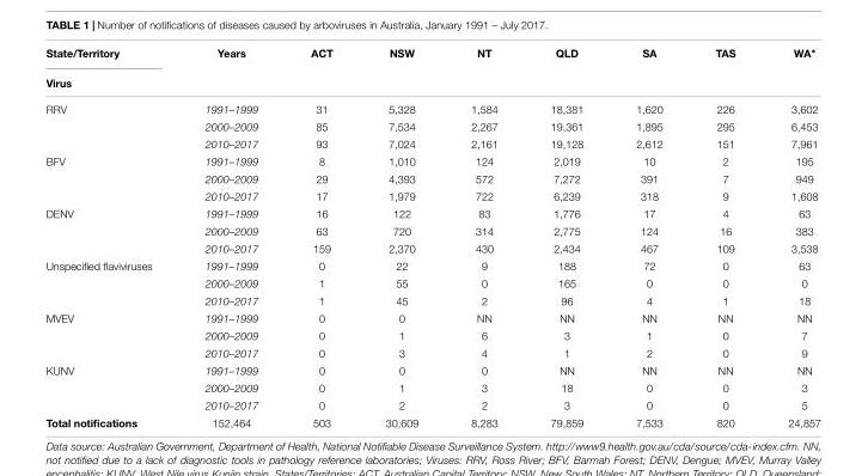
<table><thead><tr><td rowspan="2">State/Territory Virus</td><td rowspan="2">Years</td><td rowspan="2">ACT</td><td rowspan="2">NSW</td><td rowspan="2">NT</td><td rowspan="2">QLD</td><td rowspan="2">SA</td><td rowspan="2">TAS</td><td rowspan="2">WA∗</td></tr><tr></tr></thead><tbody><tr><td rowspan="3">RRV</td><td>1991–1999</td><td>31</td><td>5,328</td><td>1,584</td><td>18,381</td><td>1,620</td><td>226</td><td>3,602</td></tr><tr><td>2000–2009</td><td>85</td><td>7,534</td><td>2,267</td><td>19,361</td><td>1,895</td><td>295</td><td>6,453</td></tr><tr><td>2010–2017</td><td>93</td><td>7,024</td><td>2,161</td><td>19,128</td><td>2,612</td><td>151</td><td>7,961</td></tr><tr><td rowspan="3">BFV</td><td>1991–1999</td><td>8</td><td>1,010</td><td>124</td><td>2,019</td><td>10</td><td>2</td><td>195</td></tr><tr><td>2000–2009</td><td>29</td><td>4,393</td><td>572</td><td>7,272</td><td>391</td><td>7</td><td>949</td></tr><tr><td>2010–2017</td><td>17</td><td>1,979</td><td>722</td><td>6,239</td><td>318</td><td>9</td><td>1,608</td></tr><tr><td rowspan="3">DENV</td><td>1991–1999</td><td>16</td><td>122</td><td>83</td><td>1,776</td><td>17</td><td>4</td><td>63</td></tr><tr><td>2000–2009</td><td>63</td><td>720</td><td>314</td><td>2,775</td><td>124</td><td>16</td><td>383</td></tr><tr><td>2010–2017</td><td>159</td><td>2,370</td><td>430</td><td>2,434</td><td>467</td><td>109</td><td>3,538</td></tr><tr><td rowspan="3">Unspecified flaviviruses</td><td>1991–1999</td><td>0</td><td>22</td><td>9</td><td>188</td><td>72</td><td>0</td><td>63</td></tr><tr><td>2000–2009</td><td>1</td><td>55</td><td>0</td><td>165</td><td>0</td><td>0</td><td>0</td></tr><tr><td>2010–2017</td><td>1</td><td>45</td><td>2</td><td>96</td><td>4</td><td>1</td><td>18</td></tr><tr><td rowspan="3">MVEV</td><td>1991–1999</td><td>0</td><td>0</td><td>NN</td><td>NN</td><td>NN</td><td>NN</td><td>NN</td></tr><tr><td>2000–2009</td><td>0</td><td>1</td><td>6</td><td>3</td><td>1</td><td>0</td><td>7</td></tr><tr><td>2010–2017</td><td>0</td><td>3</td><td>4</td><td>1</td><td>2</td><td>0</td><td>9</td></tr><tr><td rowspan="3">KUNV</td><td>1991–1999</td><td>0</td><td>0</td><td>0</td><td>NN</td><td>NN</td><td>NN</td><td>NN</td></tr><tr><td>2000–2009</td><td>0</td><td>1</td><td>3</td><td>18</td><td>0</td><td>0</td><td>3</td></tr><tr><td>2010–2017</td><td>0</td><td>2</td><td>2</td><td>3</td><td>0</td><td>0</td><td>5</td></tr><tr><td>Total notifications</td><td>152,464</td><td>503</td><td>30,609</td><td>8,283</td><td>79,859</td><td>7,533</td><td>820</td><td>24,857</td></tr></tbody></table>